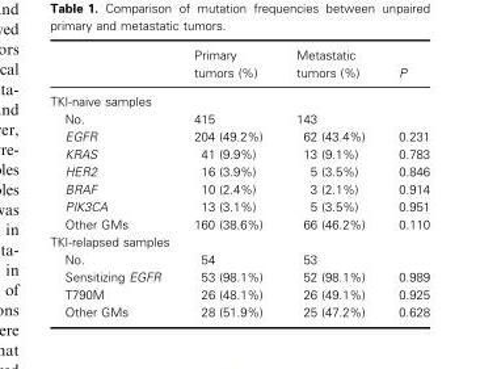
<table><thead><tr><td></td><td>Primary tumors (%)</td><td>Metastatic tumors (%)</td><td>P</td></tr></thead><tbody><tr><td colspan="4">TKI-naive samples</td></tr><tr><td>No.</td><td>415</td><td>143</td><td></td></tr><tr><td>EGFR</td><td>204 (49.2%)</td><td>62 (43.4%)</td><td>0.231</td></tr><tr><td>KRAS</td><td>41 (9.9%)</td><td>13 (9.1%)</td><td>0.783</td></tr><tr><td>HER2</td><td>16 (3.9%)</td><td>5 (3.5%)</td><td>0.846</td></tr><tr><td>BRAF</td><td>10 (2.4%)</td><td>3 (2.1%)</td><td>0.914</td></tr><tr><td>PIK3CA</td><td>13 (3.1%)</td><td>5 (3.5%)</td><td>0.951</td></tr><tr><td>Other GMs</td><td>160 (38.6%)</td><td>66 (46.2%)</td><td>0.110</td></tr><tr><td colspan="4">TKI-relapsed samples</td></tr><tr><td>No.</td><td>54</td><td>53</td><td></td></tr><tr><td>Sensitizing EGFR</td><td>53 (98.1%)</td><td>52 (98.1%)</td><td>0.989</td></tr><tr><td>T790M</td><td>26 (48.1%)</td><td>26 (49.1%)</td><td>0.925</td></tr><tr><td>Other GMs</td><td>28 (51.9%)</td><td>25 (47.2%)</td><td>0.628</td></tr></tbody></table>